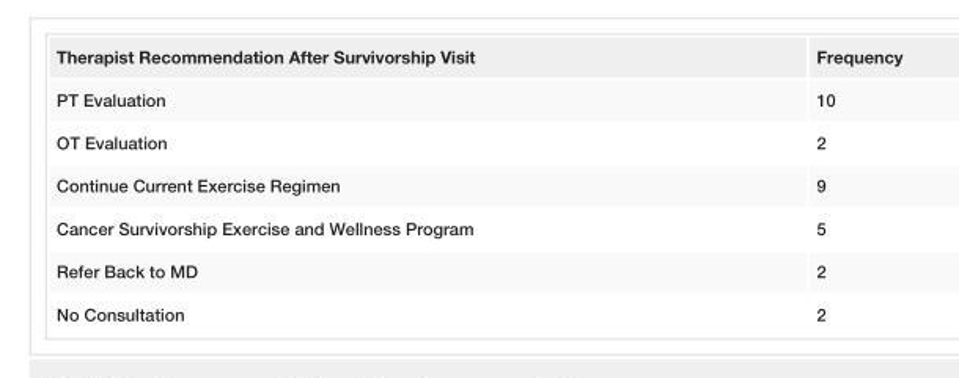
<table><tbody><tr><td>Therapist Recommendation After Survivorship Visit</td><td>Frequency</td></tr><tr><td>PT Evaluation</td><td>10</td></tr><tr><td>OT Evaluation</td><td>2</td></tr><tr><td>Continue Current Exercise Regimen</td><td>9</td></tr><tr><td>Cancer Survivorship Exercise and Wellness Program</td><td>5</td></tr><tr><td>Refer Back to MD</td><td>2</td></tr><tr><td>No Consultation</td><td>2</td></tr></tbody></table>